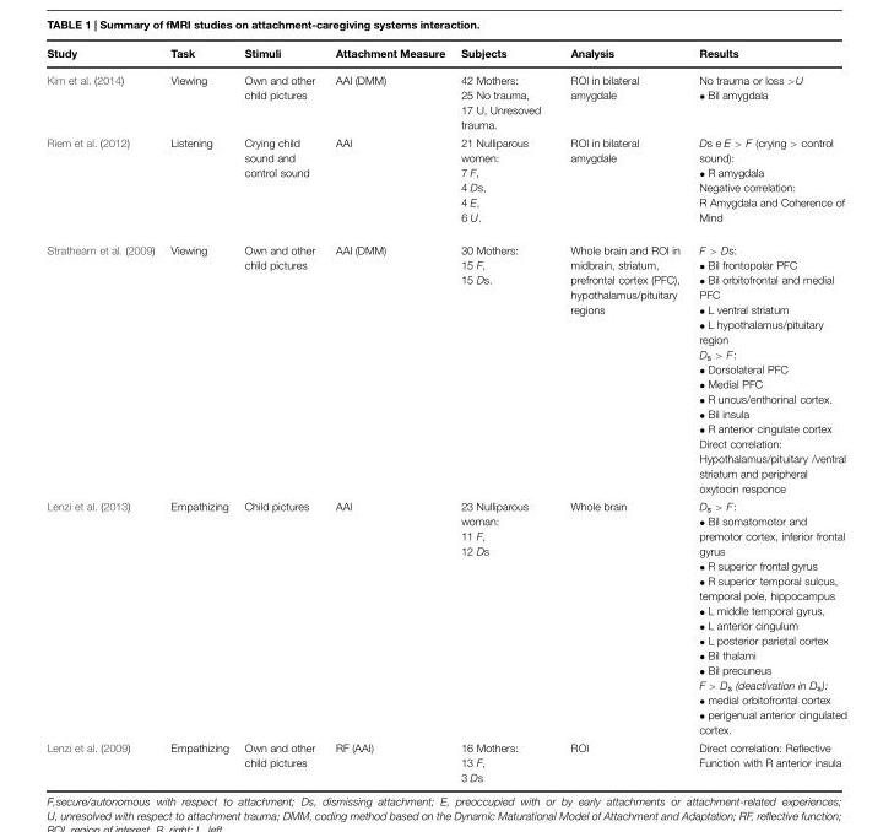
<table><thead><tr><td>Study</td><td>Task</td><td>Stimuli</td><td>Attachment Measure</td><td>Subjects</td><td>Analysis</td><td>Results</td></tr></thead><tbody><tr><td>Kim et al. (2014)</td><td>Viewing</td><td>Own and other child pictures</td><td>AAI (DMM)</td><td>42 Mothers: 25 No trauma, 17 U, Unresoved trauma.</td><td>ROI in bilateral amygdale</td><td>No trauma or loss &gt;U • Bil amygdala</td></tr><tr><td>Riem et al. (2012)</td><td>Listening</td><td>Crying child sound and control sound</td><td>AAI</td><td>21 Nulliparous women: 7 F, 4 Ds, 4 E, 6 U.</td><td>ROI in bilateral amygdale</td><td>Ds e E &gt; F (crying &gt; control sound): • R amygdala Negative correlation: R Amygdala and Coherence of Mind</td></tr><tr><td>Strathearn et al. (2009)</td><td>Viewing</td><td>Own and other child pictures</td><td>AAI (DMM)</td><td>30 Mothers: 15 F, 15 Ds.</td><td>Whole brain and ROI in midbrain, striatum, prefrontal cortex (PFC), hypothalamus/pituitary regions</td><td>F &gt; Ds: • Bil frontopolar PFC • Bil orbitofrontal and medial PFC • L ventral striatum • L hypothalamus/pituitary region D<sub>s</sub> &gt; F: • Dorsolateral PFC • Medial PFC • R uncus/enthorinal cortex. • Bil insula • R anterior cingulate cortex Direct correlation: Hypothalamus/pituitary /ventral striatum and peripheral oxytocin responce</td></tr><tr><td>Lenzi et al. (2013)</td><td>Empathizing</td><td>Child pictures</td><td>AAI</td><td>23 Nulliparous woman: 11 F, 12 Ds</td><td>Whole brain</td><td>D<sub>s</sub> &gt; F: • Bil somatomotor and premotor cortex, inferior frontal gyrus • R superior frontal gyrus • R superior temporal sulcus, temporal pole, hippocampus • L middle temporal gyrus, • L anterior cingulum • L posterior parietal cortex • Bil thalami • Bil precuneus F &gt; D<sub>s</sub> (deactivation in D<sub>s</sub>): • medial orbitofrontal cortex • perigenual anterior cingulated cortex.</td></tr><tr><td>Lenzi et al. (2009)</td><td>Empathizing</td><td>Own and other child pictures</td><td>RF (AAI)</td><td>16 Mothers: 13 F, 3 Ds</td><td>ROI</td><td>Direct correlation: Reflective Function with R anterior insula</td></tr></tbody></table>